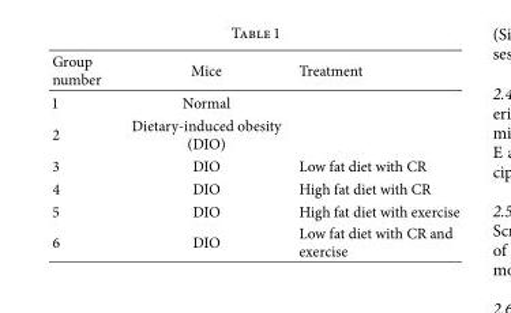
<table><thead><tr><td>Group number</td><td>Mice</td><td>Treatment</td></tr></thead><tbody><tr><td>1</td><td>Normal</td><td></td></tr><tr><td>2</td><td>Dietary-induced obesity (DIO)</td><td></td></tr><tr><td>3</td><td>DIO</td><td>Low fat diet with CR</td></tr><tr><td>4</td><td>DIO</td><td>High fat diet with CR</td></tr><tr><td>5</td><td>DIO</td><td>High fat diet with exercise</td></tr><tr><td>6</td><td>DIO</td><td>Low fat diet with CR and exercise</td></tr></tbody></table>